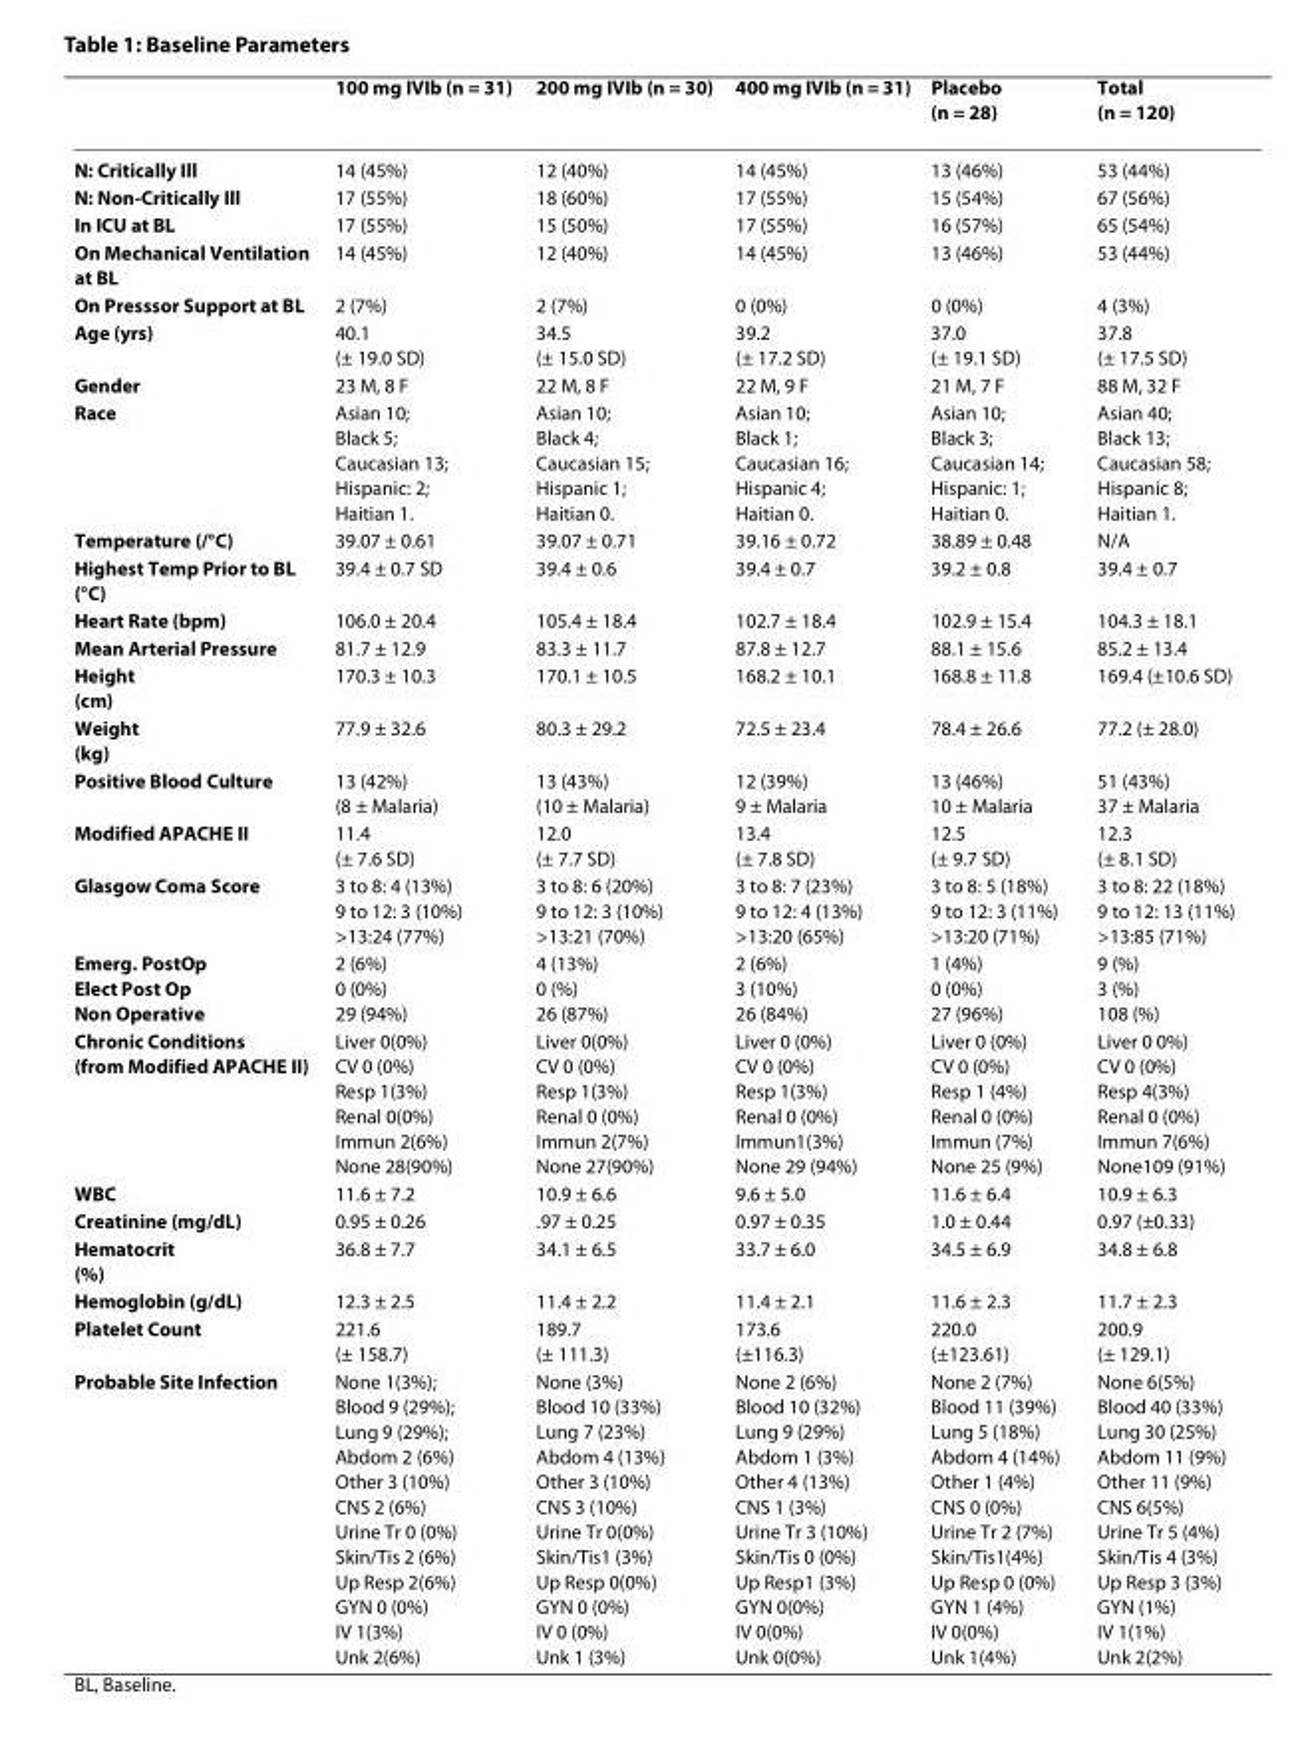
<table><thead><tr><td></td><td>100 mg IVIb (n = 31)</td><td>200 mg IVIb (n = 30)</td><td>400 mg IVIb (n = 31)</td><td>Placebo (n = 28)</td><td>Total (n = 120)</td></tr></thead><tbody><tr><td>N: Critically Ill</td><td>14 (45%)</td><td>12 (40%)</td><td>14 (45%)</td><td>13 (46%)</td><td>53 (44%)</td></tr><tr><td>N: Non-Critically Ill</td><td>17 (55%)</td><td>18 (60%)</td><td>17 (55%)</td><td>15 (54%)</td><td>67 (56%)</td></tr><tr><td>In ICU at BL</td><td>17 (55%)</td><td>15 (50%)</td><td>17 (55%)</td><td>16 (57%)</td><td>65 (54%)</td></tr><tr><td>On Mechanical Ventilation at BL</td><td>14 (45%)</td><td>12 (40%)</td><td>14 (45%)</td><td>13 (46%)</td><td>53 (44%)</td></tr><tr><td>On Presssor Support at BL</td><td>2 (7%)</td><td>2 (7%)</td><td>0 (0%)</td><td>0 (0%)</td><td>4 (3%)</td></tr><tr><td>Age (yrs)</td><td>40.1 (± 19.0 SD)</td><td>34.5 (± 15.0 SD)</td><td>39.2 (± 17.2 SD)</td><td>37.0 (± 19.1 SD)</td><td>37.8 (± 17.5 SD)</td></tr><tr><td>Gender</td><td>23 M, 8 F</td><td>22 M, 8 F</td><td>22 M, 9 F</td><td>21 M, 7 F</td><td>88 M, 32 F</td></tr><tr><td>Race</td><td>Asian 10; Black 5; Caucasian 13; Hispanic: 2; Haitian 1.</td><td>Asian 10; Black 4; Caucasian 15; Hispanic 1; Haitian 0.</td><td>Asian 10; Black 1; Caucasian 16; Hispanic 4; Haitian 0.</td><td>Asian 10; Black 3; Caucasian 14; Hispanic: 1; Haitian 0.</td><td>Asian 40; Black 13; Caucasian 58; Hispanic 8; Haitian 1.</td></tr><tr><td>Temperature (/°C)</td><td>39.07 ± 0.61</td><td>39.07 ± 0.71</td><td>39.16 ± 0.72</td><td>38.89 ± 0.48</td><td>N/A</td></tr><tr><td>Highest Temp Prior to BL (°C)</td><td>39.4 ± 0.7 SD</td><td>39.4 ± 0.6</td><td>39.4 ± 0.7</td><td>39.2 ± 0.8</td><td>39.4 ± 0.7</td></tr><tr><td>Heart Rate (bpm)</td><td>106.0 ± 20.4</td><td>105.4 ± 18.4</td><td>102.7 ± 18.4</td><td>102.9 ± 15.4</td><td>104.3 ± 18.1</td></tr><tr><td>Mean Arterial Pressure</td><td>81.7 ± 12.9</td><td>83.3 ± 11.7</td><td>87.8 ± 12.7</td><td>88.1 ± 15.6</td><td>85.2 ± 13.4</td></tr><tr><td>Height (cm)</td><td>170.3 ± 10.3</td><td>170.1 ± 10.5</td><td>168.2 ± 10.1</td><td>168.8 ± 11.8</td><td>169.4 (±10.6 SD)</td></tr><tr><td>Weight (kg)</td><td>77.9 ± 32.6</td><td>80.3 ± 29.2</td><td>72.5 ± 23.4</td><td>78.4 ± 26.6</td><td>77.2 (± 28.0)</td></tr><tr><td>Positive Blood Culture</td><td>13 (42%) (8 ± Malaria)</td><td>13 (43%) (10 ± Malaria)</td><td>12 (39%) 9 ± Malaria</td><td>13 (46%) 10 ± Malaria</td><td>51 (43%) 37 ± Malaria</td></tr><tr><td>Modified APACHE II</td><td>11.4 (± 7.6 SD)</td><td>12.0 (± 7.7 SD)</td><td>13.4 (± 7.8 SD)</td><td>12.5 (± 9.7 SD)</td><td>12.3 (± 8.1 SD)</td></tr><tr><td>Glasgow Coma Score</td><td>3 to 8: 4 (13%) 9 to 12: 3 (10%) &gt;13:24 (77%)</td><td>3 to 8: 6 (20%) 9 to 12: 3 (10%) &gt;13:21 (70%)</td><td>3 to 8: 7 (23%) 9 to 12: 4 (13%) &gt;13:20 (65%)</td><td>3 to 8: 5 (18%) 9 to 12: 3 (11%) &gt;13:20 (71%)</td><td>3 to 8: 22 (18%) 9 to 12: 13 (11%) &gt;13:85 (71%)</td></tr><tr><td>Emerg. PostOp Elect Post Op Non Operative</td><td>2 (6%) 0 (0%) 29 (94%)</td><td>4 (13%) 0 (%) 26 (87%)</td><td>2 (6%) 3 (10%) 26 (84%)</td><td>1 (4%) 0 (0%) 27 (96%)</td><td>9 (%) 3 (%) 108 (%)</td></tr><tr><td>Chronic Conditions (from Modified APACHE II)</td><td>Liver 0(0%) CV 0 (0%) Resp 1(3%) Renal 0(0%) Immun 2(6%) None 28(90%)</td><td>Liver 0(0%) CV 0 (0%) Resp 1(3%) Renal 0 (0%) Immun 2(7%) None 27(90%)</td><td>Liver 0 (0%) CV 0 (0%) Resp 1(3%) Renal 0 (0%) Immun1(3%) None 29 (94%)</td><td>Liver 0 (0%) CV 0 (0%) Resp 1 (4%) Renal 0 (0%) Immun (7%) None 25 (9%)</td><td>Liver 0 0%) CV 0 (0%) Resp 4(3%) Renal 0 (0%) Immun 7(6%) None109 (91%)</td></tr><tr><td>WBC</td><td>11.6 ± 7.2</td><td>10.9 ± 6.6</td><td>9.6 ± 5.0</td><td>11.6 ± 6.4</td><td>10.9 ± 6.3</td></tr><tr><td>Creatinine (mg/dL)</td><td>0.95 ± 0.26</td><td>.97 ± 0.25</td><td>0.97 ± 0.35</td><td>1.0 ± 0.44</td><td>0.97 (±0.33)</td></tr><tr><td>Hematocrit (%)</td><td>36.8 ± 7.7</td><td>34.1 ± 6.5</td><td>33.7 ± 6.0</td><td>34.5 ± 6.9</td><td>34.8 ± 6.8</td></tr><tr><td>Hemoglobin (g/dL)</td><td>12.3 ± 2.5</td><td>11.4 ± 2.2</td><td>11.4 ± 2.1</td><td>11.6 ± 2.3</td><td>11.7 ± 2.3</td></tr><tr><td>Platelet Count</td><td>221.6 (± 158.7)</td><td>189.7 (± 111.3)</td><td>173.6 (±116.3)</td><td>220.0 (±123.61)</td><td>200.9 (± 129.1)</td></tr><tr><td>Probable Site Infection</td><td>None 1(3%); Blood 9 (29%); Lung 9 (29%); Abdom 2 (6%) Other 3 (10%) CNS 2 (6%) Urine Tr 0 (0%) Skin/Tis 2 (6%) Up Resp 2(6%) GYN 0 (0%) IV 1(3%) Unk 2(6%)</td><td>None (3%) Blood 10 (33%) Lung 7 (23%) Abdom 4 (13%) Other 3 (10%) CNS 3 (10%) Urine Tr 0(0%) Skin/Tis1 (3%) Up Resp 0(0%) GYN 0 (0%) IV 0 (0%) Unk 1 (3%)</td><td>None 2 (6%) Blood 10 (32%) Lung 9 (29%) Abdom 1 (3%) Other 4 (13%) CNS 1 (3%) Urine Tr 3 (10%) Skin/Tis 0 (0%) Up Resp1 (3%) GYN 0(0%) IV 0(0%) Unk 0(0%)</td><td>None 2 (7%) Blood 11 (39%) Lung 5 (18%) Abdom 4 (14%) Other 1 (4%) CNS 0 (0%) Urine Tr 2 (7%) Skin/Tis1(4%) Up Resp 0 (0%) GYN 1 (4%) IV 0(0%) Unk 1(4%)</td><td>None 6(5%) Blood 40 (33%) Lung 30 (25%) Abdom 11 (9%) Other 11 (9%) CNS 6(5%) Urine Tr 5 (4%) Skin/Tis 4 (3%) Up Resp 3 (3%) GYN (1%) IV 1(1%) Unk 2(2%)</td></tr></tbody></table>